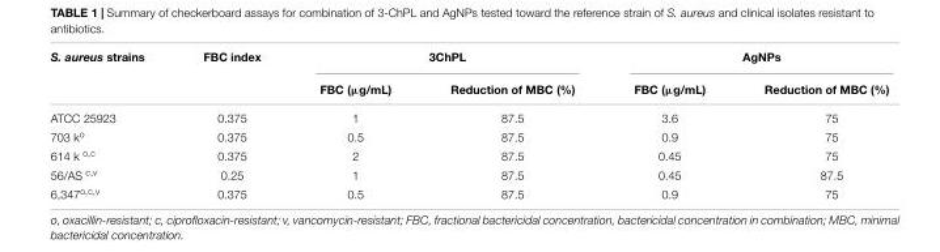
<table><thead><tr><td rowspan="2">S. aureus strains</td><td rowspan="2">FBC index</td><td colspan="2">3ChPL</td><td colspan="2">AgNPs</td></tr><tr><td>FBC (µg/mL)</td><td>Reduction of MBC (%)</td><td>FBC (µg/mL)</td><td>Reduction of MBC (%)</td></tr></thead><tbody><tr><td>ATCC 25923</td><td>0.375</td><td>1</td><td>87.5</td><td>3.6</td><td>75</td></tr><tr><td>703 k<sup>o</sup></td><td>0.375</td><td>0.5</td><td>87.5</td><td>0.9</td><td>75</td></tr><tr><td>614 k <sup>o,c</sup></td><td>0.375</td><td>2</td><td>87.5</td><td>0.45</td><td>75</td></tr><tr><td>56/AS <sup>c,v</sup></td><td>0.25</td><td>1</td><td>87.5</td><td>0.45</td><td>87.5</td></tr><tr><td>6,347<sup>o,c,v</sup></td><td>0.375</td><td>0.5</td><td>87.5</td><td>0.9</td><td>75</td></tr></tbody></table>